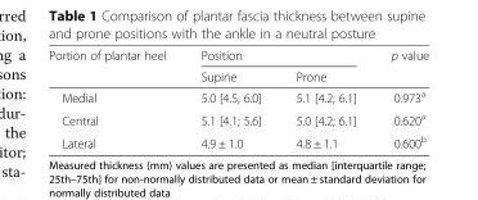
<table><thead><tr><td rowspan="2">Portion of plantar heel</td><td colspan="2">Position</td><td rowspan="2">p value</td></tr><tr><td>Supine</td><td>Prone</td></tr></thead><tbody><tr><td>Medial</td><td>5.0 [4.5; 6.0]</td><td>5.1 [4.2; 6.1]</td><td>0.973<sup>a</sup></td></tr><tr><td>Central</td><td>5.1 [4.1; 5.6]</td><td>5.0 [4.2; 6.1]</td><td>0.620<sup>a</sup></td></tr><tr><td>Lateral</td><td>4.9 ± 1.0</td><td>4.8 ± 1.1</td><td>0.600<sup>b</sup></td></tr></tbody></table>